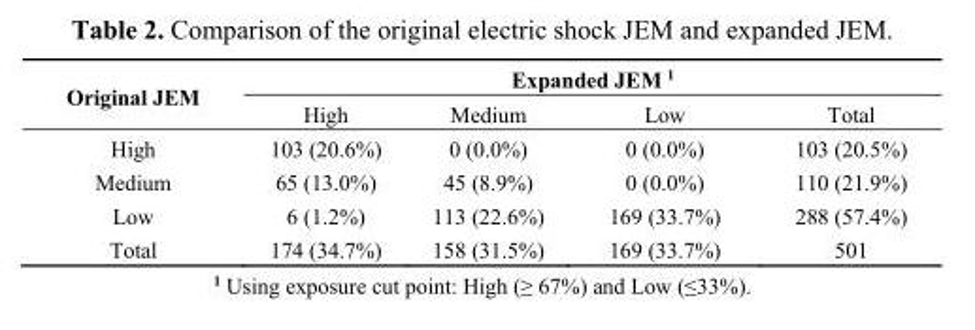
<table><thead><tr><td rowspan="2">Original JEM</td><td colspan="4">Expanded JEM <sup>1</sup></td></tr><tr><td>High</td><td>Medium</td><td>Low</td><td>Total</td></tr></thead><tbody><tr><td>High</td><td>103 (20.6%)</td><td>0 (0.0%)</td><td>0 (0.0%)</td><td>103 (20.5%)</td></tr><tr><td>Medium</td><td>65 (13.0%)</td><td>45 (8.9%)</td><td>0 (0.0%)</td><td>110 (21.9%)</td></tr><tr><td>Low</td><td>6 (1.2%)</td><td>113 (22.6%)</td><td>169 (33.7%)</td><td>288 (57.4%)</td></tr><tr><td>Total</td><td>174 (34.7%)</td><td>158 (31.5%)</td><td>169 (33.7%)</td><td>501</td></tr></tbody></table>